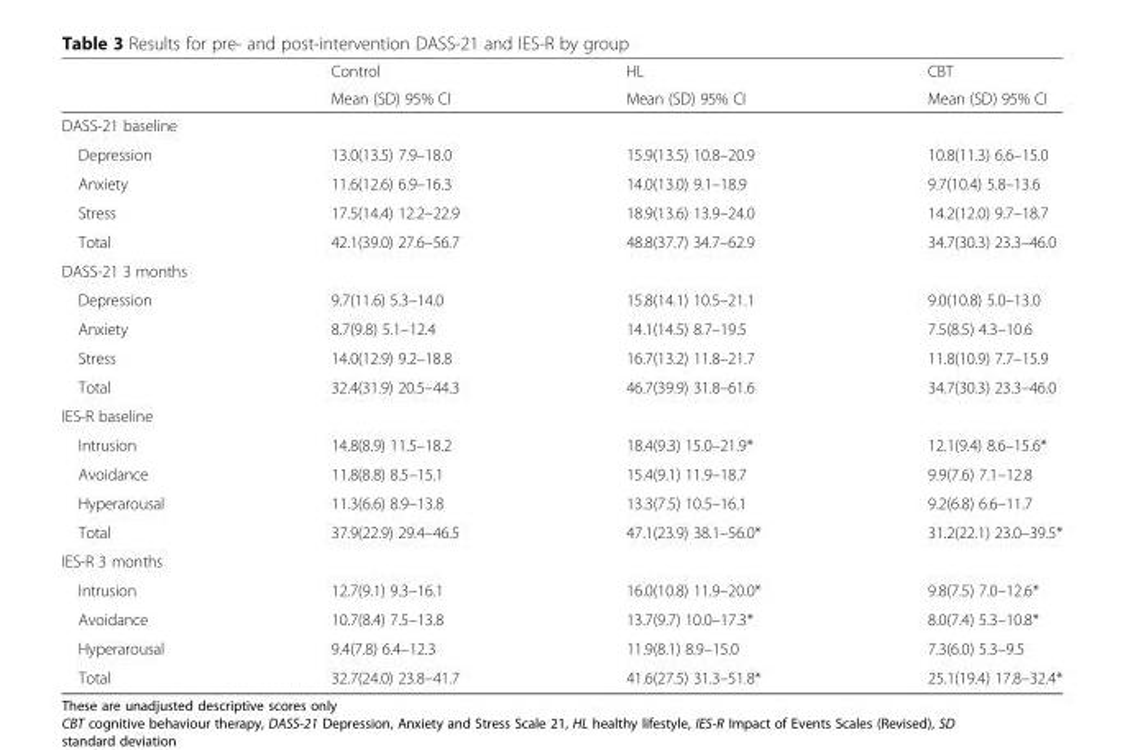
<table><thead><tr><td rowspan="2"></td><td rowspan="2">Control Mean (SD) 95% CI</td><td rowspan="2">HL Mean (SD) 95% CI</td><td rowspan="2">CBT Mean (SD) 95% CI</td></tr><tr></tr></thead><tbody><tr><td colspan="4">DASS-21 baseline</td></tr><tr><td>Depression</td><td>13.0(13.5) 7.9–18.0</td><td>15.9(13.5) 10.8–20.9</td><td>10.8(11.3) 6.6–15.0</td></tr><tr><td>Anxiety</td><td>11.6(12.6) 6.9–16.3</td><td>14.0(13.0) 9.1–18.9</td><td>9.7(10.4) 5.8–13.6</td></tr><tr><td>Stress</td><td>17.5(14.4) 12.2–22.9</td><td>18.9(13.6) 13.9–24.0</td><td>14.2(12.0) 9.7–18.7</td></tr><tr><td>Total</td><td>42.1(39.0) 27.6–56.7</td><td>48.8(37.7) 34.7–62.9</td><td>34.7(30.3) 23.3–46.0</td></tr><tr><td colspan="4">DASS-21 3 months</td></tr><tr><td>Depression</td><td>9.7(11.6) 5.3–14.0</td><td>15.8(14.1) 10.5–21.1</td><td>9.0(10.8) 5.0–13.0</td></tr><tr><td>Anxiety</td><td>8.7(9.8) 5.1–12.4</td><td>14.1(14.5) 8.7–19.5</td><td>7.5(8.5) 4.3–10.6</td></tr><tr><td>Stress</td><td>14.0(12.9) 9.2–18.8</td><td>16.7(13.2) 11.8–21.7</td><td>11.8(10.9) 7.7–15.9</td></tr><tr><td>Total</td><td>32.4(31.9) 20.5–44.3</td><td>46.7(39.9) 31.8–61.6</td><td>34.7(30.3) 23.3–46.0</td></tr><tr><td colspan="4">IES-R baseline</td></tr><tr><td>Intrusion</td><td>14.8(8.9) 11.5–18.2</td><td>18.4(9.3) 15.0–21.9*</td><td>12.1(9.4) 8.6–15.6*</td></tr><tr><td>Avoidance</td><td>11.8(8.8) 8.5–15.1</td><td>15.4(9.1) 11.9–18.7</td><td>9.9(7.6) 7.1–12.8</td></tr><tr><td>Hyperarousal</td><td>11.3(6.6) 8.9–13.8</td><td>13.3(7.5) 10.5–16.1</td><td>9.2(6.8) 6.6–11.7</td></tr><tr><td>Total</td><td>37.9(22.9) 29.4–46.5</td><td>47.1(23.9) 38.1–56.0*</td><td>31.2(22.1) 23.0–39.5*</td></tr><tr><td colspan="4">IES-R 3 months</td></tr><tr><td>Intrusion</td><td>12.7(9.1) 9.3–16.1</td><td>16.0(10.8) 11.9–20.0*</td><td>9.8(7.5) 7.0–12.6*</td></tr><tr><td>Avoidance</td><td>10.7(8.4) 7.5–13.8</td><td>13.7(9.7) 10.0–17.3*</td><td>8.0(7.4) 5.3–10.8*</td></tr><tr><td>Hyperarousal</td><td>9.4(7.8) 6.4–12.3</td><td>11.9(8.1) 8.9–15.0</td><td>7.3(6.0) 5.3–9.5</td></tr><tr><td>Total</td><td>32.7(24.0) 23.8–41.7</td><td>41.6(27.5) 31.3–51.8*</td><td>25.1(19.4) 17.8–32.4*</td></tr></tbody></table>